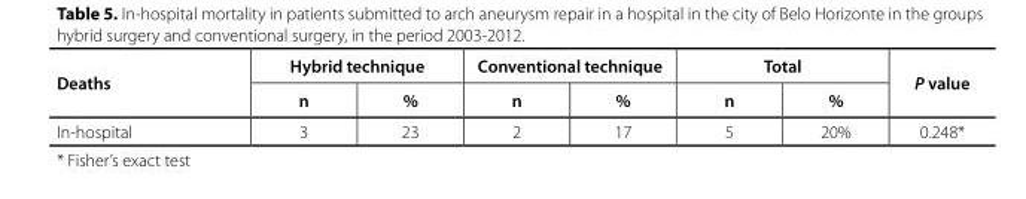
<table><thead><tr><td rowspan="2">Deaths</td><td colspan="2">Hybrid technique</td><td colspan="2">Conventional technique</td><td colspan="2">Total</td><td rowspan="2">P value</td></tr><tr><td>n</td><td>%</td><td>n</td><td>%</td><td>n</td><td>%</td></tr></thead><tbody><tr><td>In-hospital</td><td>3</td><td>23</td><td>2</td><td>17</td><td>5</td><td>20%</td><td>0.248*</td></tr></tbody></table>